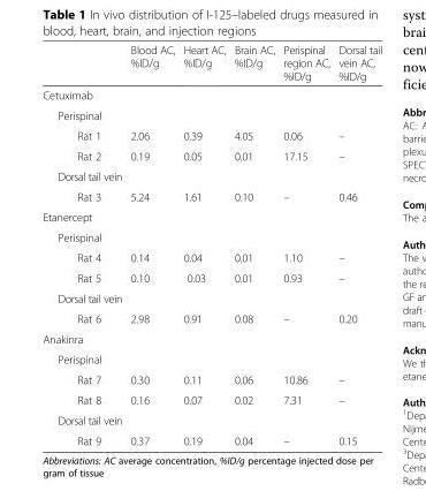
<table><thead><tr><td></td><td>Blood AC, %ID/g</td><td>Heart AC, %ID/g</td><td>Brain AC, %ID/g</td><td>Perispinal region AC, %ID/g</td><td>Dorsal tail vein AC, %ID/g</td></tr></thead><tbody><tr><td colspan="6">Cetuximab</td></tr><tr><td colspan="6">Perispinal</td></tr><tr><td>Rat 1</td><td>2.06</td><td>0.39</td><td>4.05</td><td>0.06</td><td>–</td></tr><tr><td>Rat 2</td><td>0.19</td><td>0.05</td><td>0.01</td><td>17.15</td><td>–</td></tr><tr><td colspan="6">Dorsal tail vein</td></tr><tr><td>Rat 3</td><td>5.24</td><td>1.61</td><td>0.10</td><td>–</td><td>0.46</td></tr><tr><td colspan="6">Etanercept</td></tr><tr><td colspan="6">Perispinal</td></tr><tr><td>Rat 4</td><td>0.14</td><td>0.04</td><td>0.01</td><td>1.10</td><td>–</td></tr><tr><td>Rat 5</td><td>0.10</td><td>0.03</td><td>0.01</td><td>0.93</td><td>–</td></tr><tr><td colspan="6">Dorsal tail vein</td></tr><tr><td>Rat 6</td><td>2.98</td><td>0.91</td><td>0.08</td><td>–</td><td>0.20</td></tr><tr><td colspan="6">Anakinra</td></tr><tr><td colspan="6">Perispinal</td></tr><tr><td>Rat 7</td><td>0.30</td><td>0.11</td><td>0.06</td><td>10.86</td><td>–</td></tr><tr><td>Rat 8</td><td>0.16</td><td>0.07</td><td>0.02</td><td>7.31</td><td>–</td></tr><tr><td colspan="6">Dorsal tail vein</td></tr><tr><td>Rat 9</td><td>0.37</td><td>0.19</td><td>0.04</td><td>–</td><td>0.15</td></tr></tbody></table>